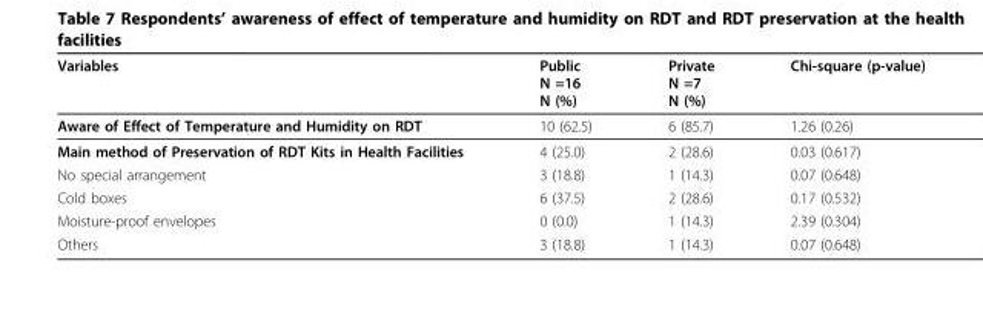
<table><thead><tr><td>Variables</td><td>Public N =16 N (%)</td><td>Private N =7 N (%)</td><td>Chi-square (p-value)</td></tr></thead><tbody><tr><td>Aware of Effect of Temperature and Humidity on RDT</td><td>10 (62.5)</td><td>6 (85.7)</td><td>1.26 (0.26)</td></tr><tr><td>Main method of Preservation of RDT Kits in Health Facilities</td><td>4 (25.0)</td><td>2 (28.6)</td><td>0.03 (0.617)</td></tr><tr><td>No special arrangement</td><td>3 (18.8)</td><td>1 (14.3)</td><td>0.07 (0.648)</td></tr><tr><td>Cold boxes</td><td>6 (37.5)</td><td>2 (28.6)</td><td>0.17 (0.532)</td></tr><tr><td>Moisture-proof envelopes</td><td>0 (0.0)</td><td>1 (14.3)</td><td>2.39 (0.304)</td></tr><tr><td>Others</td><td>3 (18.8)</td><td>1 (14.3)</td><td>0.07 (0.648)</td></tr></tbody></table>